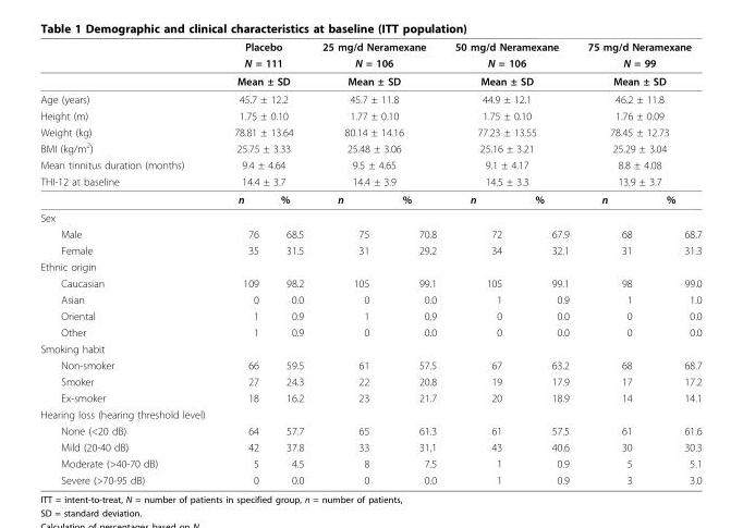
<table><thead><tr><td rowspan="2"></td><td rowspan="2" colspan="2">Placebo N = 111</td><td rowspan="2" colspan="2">25 mg/d Neramexane N = 106</td><td rowspan="2" colspan="2">50 mg/d Neramexane N = 106</td><td rowspan="2" colspan="2">75 mg/d Neramexane N = 99</td></tr><tr></tr></thead><tbody><tr><td></td><td colspan="2">Mean ± SD</td><td colspan="2">Mean ± SD</td><td colspan="2">Mean ± SD</td><td colspan="2">Mean ± SD</td></tr><tr><td>Age (years)</td><td colspan="2">45.7 ± 12.2</td><td colspan="2">45.7 ± 11.8</td><td colspan="2">44.9 ± 12.1</td><td colspan="2">46.2 ± 11.8</td></tr><tr><td>Height (m)</td><td colspan="2">1.75 ± 0.10</td><td colspan="2">1.77 ± 0.10</td><td colspan="2">1.75 ± 0.10</td><td colspan="2">1.76 ± 0.09</td></tr><tr><td>Weight (kg)</td><td colspan="2">78.81 ± 13.64</td><td colspan="2">80.14 ± 14.16</td><td colspan="2">77.23 ± 13.55</td><td colspan="2">78.45 ± 12.73</td></tr><tr><td>BMI (kg/m<sup>2</sup>)</td><td colspan="2">25.75 ± 3.33</td><td colspan="2">25.48 ± 3.06</td><td colspan="2">25.16 ± 3.21</td><td colspan="2">25.29 ± 3.04</td></tr><tr><td>Mean tinnitus duration (months)</td><td colspan="2">9.4 ± 4.64</td><td colspan="2">9.5 ± 4.65</td><td colspan="2">9.1 ± 4.17</td><td colspan="2">8.8 ± 4.08</td></tr><tr><td rowspan="2">THI-12 at baseline</td><td colspan="2">14.4 ± 3.7</td><td colspan="2">14.4 ± 3.9</td><td colspan="2">14.5 ± 3.3</td><td colspan="2">13.9 ± 3.7</td></tr><tr><td>n</td><td>%</td><td>n</td><td>%</td><td>n</td><td>%</td><td>n</td><td>%</td></tr><tr><td colspan="9">Sex</td></tr><tr><td>Male</td><td>76</td><td>68.5</td><td>75</td><td>70.8</td><td>72</td><td>67.9</td><td>68</td><td>68.7</td></tr><tr><td>Female</td><td>35</td><td>31.5</td><td>31</td><td>29.2</td><td>34</td><td>32.1</td><td>31</td><td>31.3</td></tr><tr><td colspan="9">Ethnic origin</td></tr><tr><td>Caucasian</td><td>109</td><td>98.2</td><td>105</td><td>99.1</td><td>105</td><td>99.1</td><td>98</td><td>99.0</td></tr><tr><td>Asian</td><td>0</td><td>0.0</td><td>0</td><td>0.0</td><td>1</td><td>0.9</td><td>1</td><td>1.0</td></tr><tr><td>Oriental</td><td>1</td><td>0.9</td><td>1</td><td>0.9</td><td>0</td><td>0.0</td><td>0</td><td>0.0</td></tr><tr><td>Other</td><td>1</td><td>0.9</td><td>0</td><td>0.0</td><td>0</td><td>0.0</td><td>0</td><td>0.0</td></tr><tr><td colspan="9">Smoking habit</td></tr><tr><td>Non-smoker</td><td>66</td><td>59.5</td><td>61</td><td>57.5</td><td>67</td><td>63.2</td><td>68</td><td>68.7</td></tr><tr><td>Smoker</td><td>27</td><td>24.3</td><td>22</td><td>20.8</td><td>19</td><td>17.9</td><td>17</td><td>17.2</td></tr><tr><td>Ex-smoker</td><td>18</td><td>16.2</td><td>23</td><td>21.7</td><td>20</td><td>18.9</td><td>14</td><td>14.1</td></tr><tr><td colspan="9">Hearing loss (hearing threshold level)</td></tr><tr><td>None (&lt;20 dB)</td><td>64</td><td>57.7</td><td>65</td><td>61.3</td><td>61</td><td>57.5</td><td>61</td><td>61.6</td></tr><tr><td>Mild (20-40 dB)</td><td>42</td><td>37.8</td><td>33</td><td>31,1</td><td>43</td><td>40.6</td><td>30</td><td>30.3</td></tr><tr><td>Moderate (&gt;40-70 dB)</td><td>5</td><td>4.5</td><td>8</td><td>7.5</td><td>1</td><td>0.9</td><td>5</td><td>5.1</td></tr><tr><td>Severe (&gt;70-95 dB)</td><td>0</td><td>0.0</td><td>0</td><td>0.0</td><td>1</td><td>0.9</td><td>3</td><td>3.0</td></tr></tbody></table>